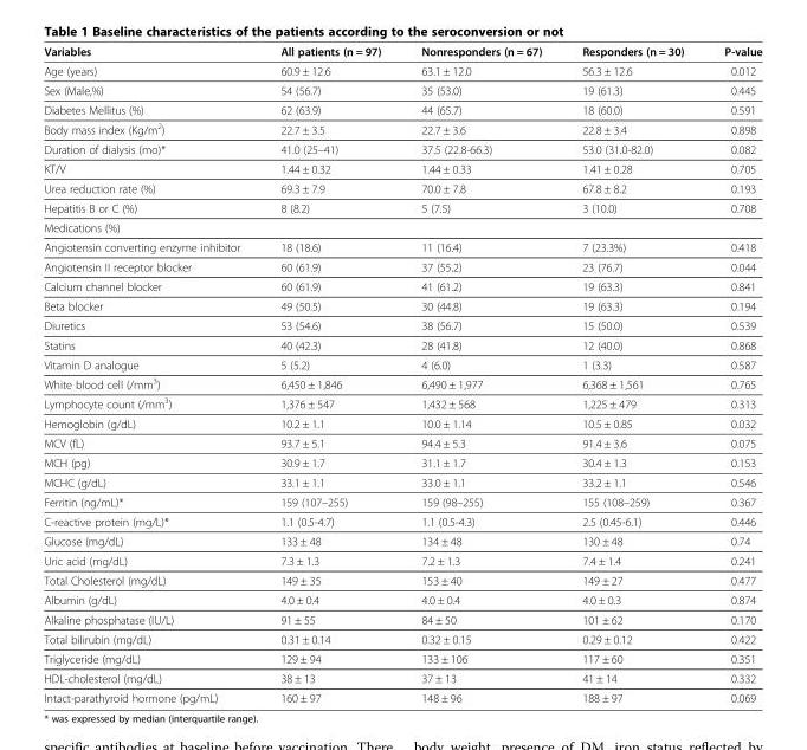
<table><thead><tr><td>Variables</td><td>All patients (n = 97)</td><td>Nonresponders (n = 67)</td><td>Responders (n = 30)</td><td>P-value</td></tr></thead><tbody><tr><td>Age (years)</td><td>60.9 ± 12.6</td><td>63.1 ± 12.0</td><td>56.3 ± 12.6</td><td>0.012</td></tr><tr><td>Sex (Male,%)</td><td>54 (56.7)</td><td>35 (53.0)</td><td>19 (61.3)</td><td>0.445</td></tr><tr><td>Diabetes Mellitus (%)</td><td>62 (63.9)</td><td>44 (65.7)</td><td>18 (60.0)</td><td>0.591</td></tr><tr><td>Body mass index (Kg/m<sup>2</sup>)</td><td>22.7 ± 3.5</td><td>22.7 ± 3.6</td><td>22.8 ± 3.4</td><td>0.898</td></tr><tr><td>Duration of dialysis (mo)*</td><td>41.0 (25–41)</td><td>37.5 (22.8-66.3)</td><td>53.0 (31.0-82.0)</td><td>0.082</td></tr><tr><td>KT/V</td><td>1.44 ± 0.32</td><td>1.44 ± 0.33</td><td>1.41 ± 0.28</td><td>0.705</td></tr><tr><td>Urea reduction rate (%)</td><td>69.3 ± 7.9</td><td>70.0 ± 7.8</td><td>67.8 ± 8.2</td><td>0.193</td></tr><tr><td>Hepatitis B or C (%)</td><td>8 (8.2)</td><td>5 (7.5)</td><td>3 (10.0)</td><td>0.708</td></tr><tr><td colspan="5">Medications (%)</td></tr><tr><td>Angiotensin converting enzyme inhibitor</td><td>18 (18.6)</td><td>11 (16.4)</td><td>7 (23.3%)</td><td>0.418</td></tr><tr><td>Angiotensin II receptor blocker</td><td>60 (61.9)</td><td>37 (55.2)</td><td>23 (76.7)</td><td>0.044</td></tr><tr><td>Calcium channel blocker</td><td>60 (61.9)</td><td>41 (61.2)</td><td>19 (63.3)</td><td>0.841</td></tr><tr><td>Beta blocker</td><td>49 (50.5)</td><td>30 (44.8)</td><td>19 (63.3)</td><td>0.194</td></tr><tr><td>Diuretics</td><td>53 (54.6)</td><td>38 (56.7)</td><td>15 (50.0)</td><td>0.539</td></tr><tr><td>Statins</td><td>40 (42.3)</td><td>28 (41.8)</td><td>12 (40.0)</td><td>0.868</td></tr><tr><td>Vitamin D analogue</td><td>5 (5.2)</td><td>4 (6.0)</td><td>1 (3.3)</td><td>0.587</td></tr><tr><td>White blood cell (/mm<sup>3</sup>)</td><td>6,450 ± 1,846</td><td>6,490 ± 1,977</td><td>6,368 ± 1,561</td><td>0.765</td></tr><tr><td>Lymphocyte count (/mm<sup>3</sup>)</td><td>1,376 ± 547</td><td>1,432 ± 568</td><td>1,225 ± 479</td><td>0.313</td></tr><tr><td>Hemoglobin (g/dL)</td><td>10.2 ± 1.1</td><td>10.0 ± 1.14</td><td>10.5 ± 0.85</td><td>0.032</td></tr><tr><td>MCV (fL)</td><td>93.7 ± 5.1</td><td>94.4 ± 5.3</td><td>91.4 ± 3.6</td><td>0.075</td></tr><tr><td>MCH (pg)</td><td>30.9 ± 1.7</td><td>31.1 ± 1.7</td><td>30.4 ± 1.3</td><td>0.153</td></tr><tr><td>MCHC (g/dL)</td><td>33.1 ± 1.1</td><td>33.0 ± 1.1</td><td>33.2 ± 1.1</td><td>0.546</td></tr><tr><td>Ferritin (ng/mL)*</td><td>159 (107–255)</td><td>159 (98–255)</td><td>155 (108–259)</td><td>0.367</td></tr><tr><td>C-reactive protein (mg/L)*</td><td>1.1 (0.5-4.7)</td><td>1.1 (0.5-4.3)</td><td>2.5 (0.45-6.1)</td><td>0.446</td></tr><tr><td>Glucose (mg/dL)</td><td>133 ± 48</td><td>134 ± 48</td><td>130 ± 48</td><td>0.74</td></tr><tr><td>Uric acid (mg/dL)</td><td>7.3 ± 1.3</td><td>7.2 ± 1.3</td><td>7.4 ± 1.4</td><td>0.241</td></tr><tr><td>Total Cholesterol (mg/dL)</td><td>149 ± 35</td><td>153 ± 40</td><td>149 ± 27</td><td>0.477</td></tr><tr><td>Albumin (g/dL)</td><td>4.0 ± 0.4</td><td>4.0 ± 0.4</td><td>4.0 ± 0.3</td><td>0.874</td></tr><tr><td>Alkaline phosphatase (IU/L)</td><td>91 ± 55</td><td>84 ± 50</td><td>101 ± 62</td><td>0.170</td></tr><tr><td>Total bilirubin (mg/dL)</td><td>0.31 ± 0.14</td><td>0.32 ± 0.15</td><td>0.29 ± 0.12</td><td>0.422</td></tr><tr><td>Triglyceride (mg/dL)</td><td>129 ± 94</td><td>133 ± 106</td><td>117 ± 60</td><td>0.351</td></tr><tr><td>HDL-cholesterol (mg/dL)</td><td>38 ± 13</td><td>37 ± 13</td><td>41 ± 14</td><td>0.332</td></tr><tr><td>Intact-parathyroid hormone (pg/mL)</td><td>160 ± 97</td><td>148 ± 96</td><td>188 ± 97</td><td>0.069</td></tr></tbody></table>